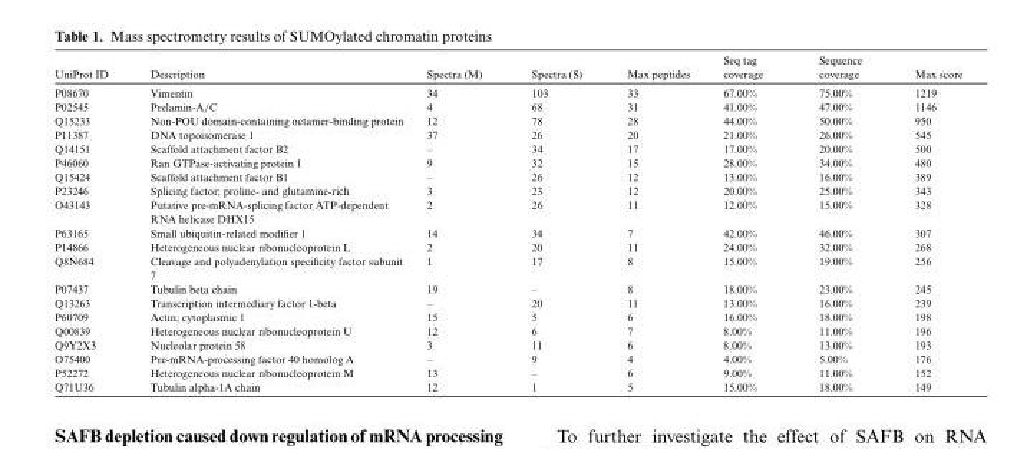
<table><thead><tr><td>UniProt ID</td><td>Description</td><td>Spectra (M)</td><td>Spectra (S)</td><td>Max peptides</td><td>Seq tag coverage</td><td>Sequence coverage</td><td>Max score</td></tr></thead><tbody><tr><td>P08670</td><td>Vimentin</td><td>34</td><td>103</td><td>33</td><td>67.00%</td><td>75.00%</td><td>1219</td></tr><tr><td>P02545</td><td>Prelamin-A/C</td><td>4</td><td>68</td><td>31</td><td>41.00%</td><td>47.00%</td><td>1146</td></tr><tr><td>Q15233</td><td>Non-POU domain-containing octamer-binding protein</td><td>12</td><td>78</td><td>28</td><td>44.00%</td><td>50.00%</td><td>950</td></tr><tr><td>P11387</td><td>DNA topoisomerase 1</td><td>37</td><td>26</td><td>20</td><td>21.00%</td><td>26.00%</td><td>545</td></tr><tr><td>Q14151</td><td>Scaffold attachment factor B2</td><td>–</td><td>34</td><td>17</td><td>17.00%</td><td>20.00%</td><td>500</td></tr><tr><td>P46060</td><td>Ran GTPase-activating protein 1</td><td>9</td><td>32</td><td>15</td><td>28.00%</td><td>34.00%</td><td>480</td></tr><tr><td>Q15424</td><td>Scaffold attachment factor B1</td><td>–</td><td>26</td><td>12</td><td>13.00%</td><td>16.00%</td><td>389</td></tr><tr><td>P23246</td><td>Splicing factor; proline- and glutamine-rich</td><td>3</td><td>23</td><td>12</td><td>20.00%</td><td>25.00%</td><td>343</td></tr><tr><td>O43143</td><td>Putative pre-mRNA-splicing factor ATP-dependent RNA helicase DHX15</td><td>2</td><td>26</td><td>11</td><td>12.00%</td><td>15.00%</td><td>328</td></tr><tr><td>P63165</td><td>Small ubiquitin-related modifier 1</td><td>14</td><td>34</td><td>7</td><td>42.00%</td><td>46.00%</td><td>307</td></tr><tr><td>P14866</td><td>Heterogeneous nuclear ribonucleoprotein L</td><td>2</td><td>20</td><td>11</td><td>24.00%</td><td>32.00%</td><td>268</td></tr><tr><td>Q8N684</td><td>Cleavage and polyadenylation specificity factor subunit 7</td><td>1</td><td>17</td><td>8</td><td>15.00%</td><td>19.00%</td><td>256</td></tr><tr><td>P07437</td><td>Tubulin beta chain</td><td>19</td><td>–</td><td>8</td><td>18.00%</td><td>23.00%</td><td>245</td></tr><tr><td>Q13263</td><td>Transcription intermediary factor 1-beta</td><td>–</td><td>20</td><td>11</td><td>13.00%</td><td>16.00%</td><td>239</td></tr><tr><td>P60709</td><td>Actin; cytoplasmic 1</td><td>15</td><td>5</td><td>6</td><td>16.00%</td><td>18.00%</td><td>198</td></tr><tr><td>Q00839</td><td>Heterogeneous nuclear ribonucleoprotein U</td><td>12</td><td>6</td><td>7</td><td>8.00%</td><td>11.00%</td><td>196</td></tr><tr><td>Q9Y2X3</td><td>Nucleolar protein 58</td><td>3</td><td>11</td><td>6</td><td>8.00%</td><td>13.00%</td><td>193</td></tr><tr><td>O75400</td><td>Pre-mRNA-processing factor 40 homolog A</td><td>–</td><td>9</td><td>4</td><td>4.00%</td><td>5.00%</td><td>176</td></tr><tr><td>P52272</td><td>Heterogeneous nuclear ribonucleoprotein M</td><td>13</td><td>–</td><td>6</td><td>9.00%</td><td>11.00%</td><td>152</td></tr><tr><td>Q71U36</td><td>Tubulin alpha-1A chain</td><td>12</td><td>1</td><td>5</td><td>15.00%</td><td>18.00%</td><td>149</td></tr></tbody></table>